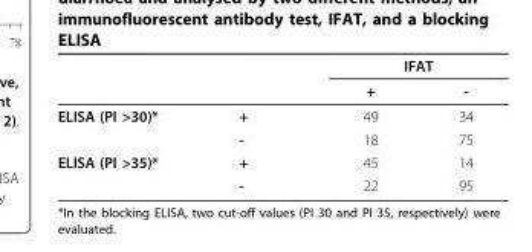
<table><thead><tr><td rowspan="2"></td><td rowspan="2"></td><td colspan="2">IFAT</td></tr><tr><td>+</td><td>-</td></tr></thead><tbody><tr><td rowspan="2">ELISA (PI &gt;30)*</td><td>+</td><td>49</td><td>34</td></tr><tr><td>-</td><td>18</td><td>75</td></tr><tr><td rowspan="2">ELISA (PI &gt;35)*</td><td>+</td><td>45</td><td>14</td></tr><tr><td>-</td><td>22</td><td>95</td></tr></tbody></table>